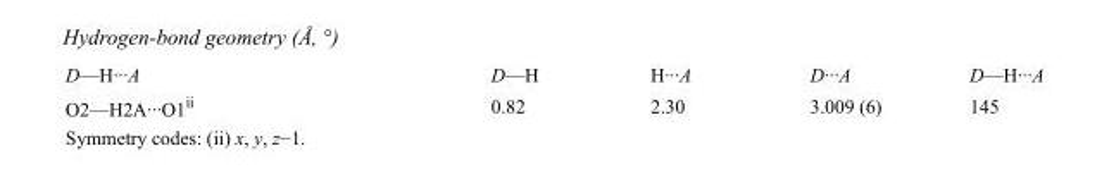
<table><tbody><tr><td>D—H···A</td><td>D—H</td><td>H···A</td><td>D···A</td><td>D—H···A</td></tr><tr><td>O2—H2A···O1<sup>ii</sup></td><td>0.82</td><td>2.30</td><td>3.009 (6)</td><td>145</td></tr></tbody></table>